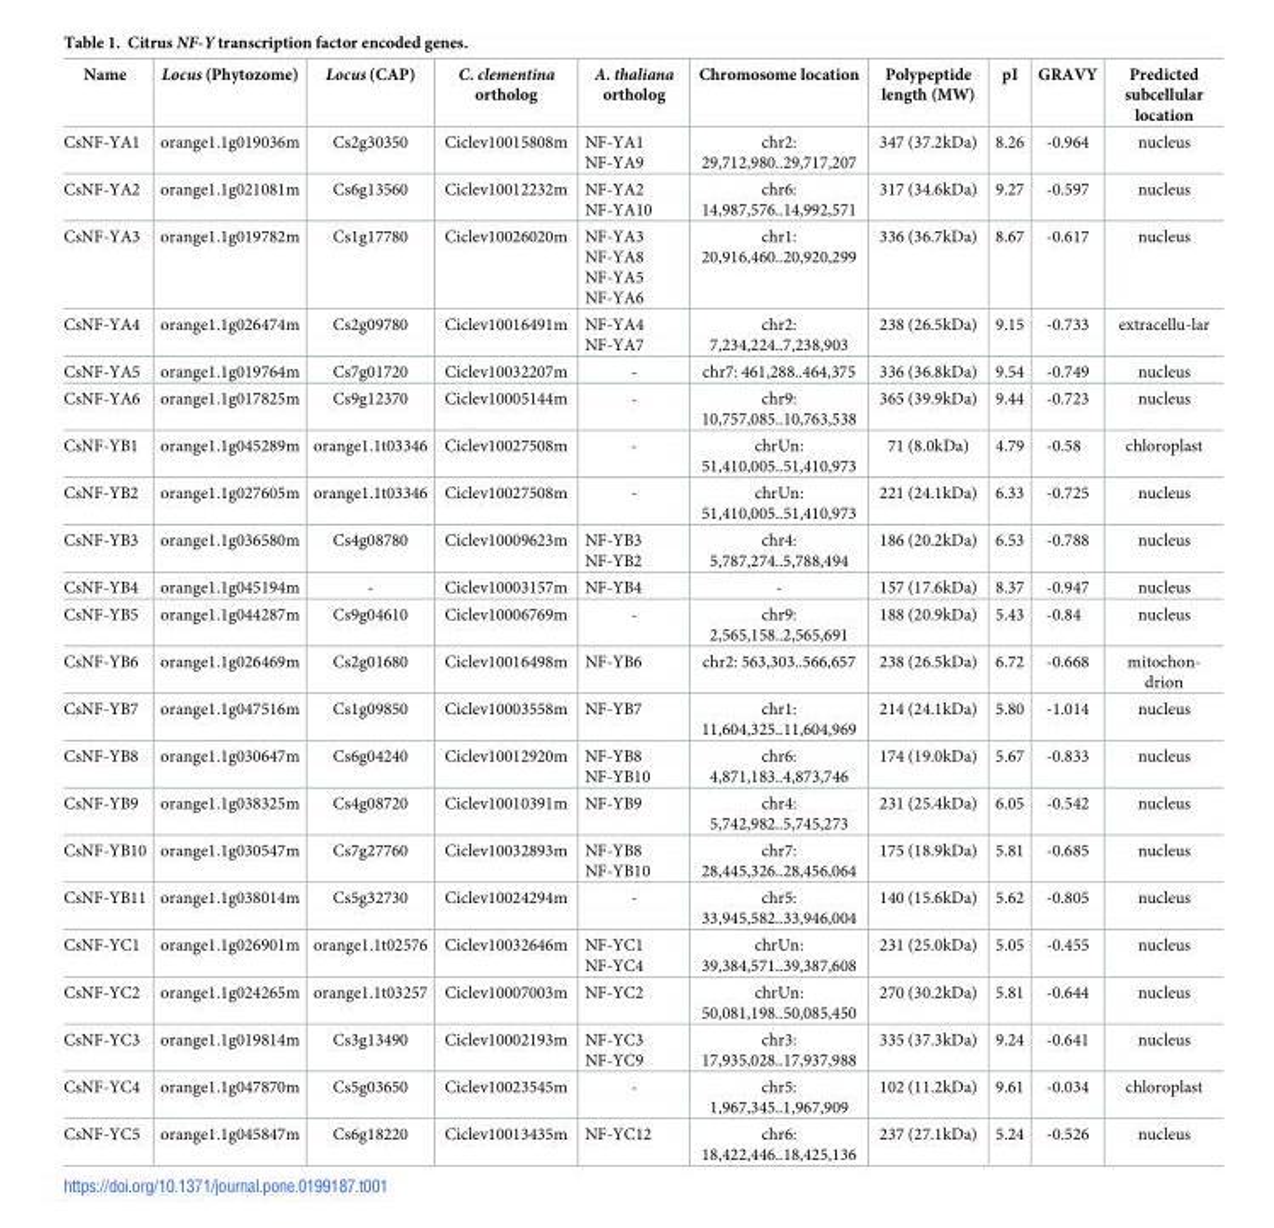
<table><thead><tr><td>Name</td><td>Locus (Phytozome)</td><td>Locus (CAP)</td><td>C. clementina ortholog</td><td>A. thaliana ortholog</td><td>Chromosome location</td><td>Polypeptide length (MW)</td><td>pI</td><td>GRAVY</td><td>Predicted subcellular location</td></tr></thead><tbody><tr><td>CsNF-YA1</td><td>orange1.1g019036m</td><td>Cs2g30350</td><td>Ciclev10015808m</td><td>NF-YA1 NF-YA9</td><td>chr2: 29,712,980..29,717,207</td><td>347 (37.2kDa)</td><td>8.26</td><td>-0.964</td><td>nucleus</td></tr><tr><td>CsNF-YA2</td><td>orange1.1g021081m</td><td>Cs6g13560</td><td>Ciclev10012232m</td><td>NF-YA2 NF-YA10</td><td>chr6: 14,987,576..14,992,571</td><td>317 (34.6kDa)</td><td>9.27</td><td>-0.597</td><td>nucleus</td></tr><tr><td>CsNF-YA3</td><td>orange1.1g019782m</td><td>Cs1g17780</td><td>Ciclev10026020m</td><td>NF-YA3 NF-YA8 NF-YA5 NF-YA6</td><td>chr1: 20,916,460..20,920,299</td><td>336 (36.7kDa)</td><td>8.67</td><td>-0.617</td><td>nucleus</td></tr><tr><td>CsNF-YA4</td><td>orange1.1g026474m</td><td>Cs2g09780</td><td>Ciclev10016491m</td><td>NF-YA4 NF-YA7</td><td>chr2: 7,234,224..7,238,903</td><td>238 (26.5kDa)</td><td>9.15</td><td>-0.733</td><td>extracellu-lar</td></tr><tr><td>CsNF-YA5</td><td>orange1.1g019764m</td><td>Cs7g01720</td><td>Ciclev10032207m</td><td>-</td><td>chr7: 461,288..464,375</td><td>336 (36.8kDa)</td><td>9.54</td><td>-0.749</td><td>nucleus</td></tr><tr><td>CsNF-YA6</td><td>orange1.1g017825m</td><td>Cs9g12370</td><td>Ciclev10005144m</td><td>-</td><td>chr9: 10,757,085..10,763,538</td><td>365 (39.9kDa)</td><td>9.44</td><td>-0.723</td><td>nucleus</td></tr><tr><td>CsNF-YB1</td><td>orange1.1g045289m</td><td>orange1.1t03346</td><td>Ciclev10027508m</td><td>-</td><td>chrUn: 51,410,005..51,410,973</td><td>71 (8.0kDa)</td><td>4.79</td><td>-0.58</td><td>chloroplast</td></tr><tr><td>CsNF-YB2</td><td>orange1.1g027605m</td><td>orange1.1t03346</td><td>Ciclev10027508m</td><td>-</td><td>chrUn: 51,410,005..51,410,973</td><td>221 (24.1kDa)</td><td>6.33</td><td>-0.725</td><td>nucleus</td></tr><tr><td>CsNF-YB3</td><td>orange1.1g036580m</td><td>Cs4g08780</td><td>Ciclev10009623m</td><td>NF-YB3 NF-YB2</td><td>chr4: 5,787,274..5,788,494</td><td>186 (20.2kDa)</td><td>6.53</td><td>-0.788</td><td>nucleus</td></tr><tr><td>CsNF-YB4</td><td>orange1.1g045194m</td><td>-</td><td>Ciclev10003157m</td><td>NF-YB4</td><td>-</td><td>157 (17.6kDa)</td><td>8.37</td><td>-0.947</td><td>nucleus</td></tr><tr><td>CsNF-YB5</td><td>orange1.1g044287m</td><td>Cs9g04610</td><td>Ciclev10006769m</td><td>-</td><td>chr9: 2,565,158..2,565,691</td><td>188 (20.9kDa)</td><td>5.43</td><td>-0.84</td><td>nucleus</td></tr><tr><td>CsNF-YB6</td><td>orange1.1g026469m</td><td>Cs2g01680</td><td>Ciclev10016498m</td><td>NF-YB6</td><td>chr2: 563,303..566,657</td><td>238 (26.5kDa)</td><td>6.72</td><td>-0.668</td><td>mitochon- drion</td></tr><tr><td>CsNF-YB7</td><td>orange1.1g047516m</td><td>Cs1g09850</td><td>Ciclev10003558m</td><td>NF-YB7</td><td>chr1: 11,604,325..11,604,969</td><td>214 (24.1kDa)</td><td>5.80</td><td>-1.014</td><td>nucleus</td></tr><tr><td>CsNF-YB8</td><td>orange1.1g030647m</td><td>Cs6g04240</td><td>Ciclev10012920m</td><td>NF-YB8 NF-YB10</td><td>chr6: 4,871,183..4,873,746</td><td>174 (19.0kDa)</td><td>5.67</td><td>-0.833</td><td>nucleus</td></tr><tr><td>CsNF-YB9</td><td>orange1.1g038325m</td><td>Cs4g08720</td><td>Ciclev10010391m</td><td>NF-YB9</td><td>chr4: 5,742,982..5,745,273</td><td>231 (25.4kDa)</td><td>6.05</td><td>-0.542</td><td>nucleus</td></tr><tr><td>CsNF-YB10</td><td>orange1.1g030547m</td><td>Cs7g27760</td><td>Ciclev10032893m</td><td>NF-YB8 NF-YB10</td><td>chr7: 28,445,326..28,456,064</td><td>175 (18.9kDa)</td><td>5.81</td><td>-0.685</td><td>nucleus</td></tr><tr><td>CsNF-YB11</td><td>orange1.1g038014m</td><td>Cs5g32730</td><td>Ciclev10024294m</td><td>-</td><td>chr5: 33,945,582..33,946,004</td><td>140 (15.6kDa)</td><td>5.62</td><td>-0.805</td><td>nucleus</td></tr><tr><td>CsNF-YC1</td><td>orange1.1g026901m</td><td>orange1.1t02576</td><td>Ciclev10032646m</td><td>NF-YC1 NF-YC4</td><td>chrUn: 39,384,571..39,387,608</td><td>231 (25.0kDa)</td><td>5.05</td><td>-0.455</td><td>nucleus</td></tr><tr><td>CsNF-YC2</td><td>orange1.1g024265m</td><td>orange1.1t03257</td><td>Ciclev10007003m</td><td>NF-YC2</td><td>chrUn: 50,081,198..50,085,450</td><td>270 (30.2kDa)</td><td>5.81</td><td>-0.644</td><td>nucleus</td></tr><tr><td>CsNF-YC3</td><td>orange1.1g019814m</td><td>Cs3g13490</td><td>Ciclev10002193m</td><td>NF-YC3 NF-YC9</td><td>chr3: 17,935,028..17,937,988</td><td>335 (37.3kDa)</td><td>9.24</td><td>-0.641</td><td>nucleus</td></tr><tr><td>CsNF-YC4</td><td>orange1.1g047870m</td><td>Cs5g03650</td><td>Ciclev10023545m</td><td>-</td><td>chr5: 1,967,345..1,967,909</td><td>102 (11.2kDa)</td><td>9.61</td><td>-0.034</td><td>chloroplast</td></tr><tr><td>CsNF-YC5</td><td>orange1.1g045847m</td><td>Cs6g18220</td><td>Ciclev10013435m</td><td>NF-YC12</td><td>chr6: 18,422,446..18,425,136</td><td>237 (27.1kDa)</td><td>5.24</td><td>-0.526</td><td>nucleus</td></tr></tbody></table>